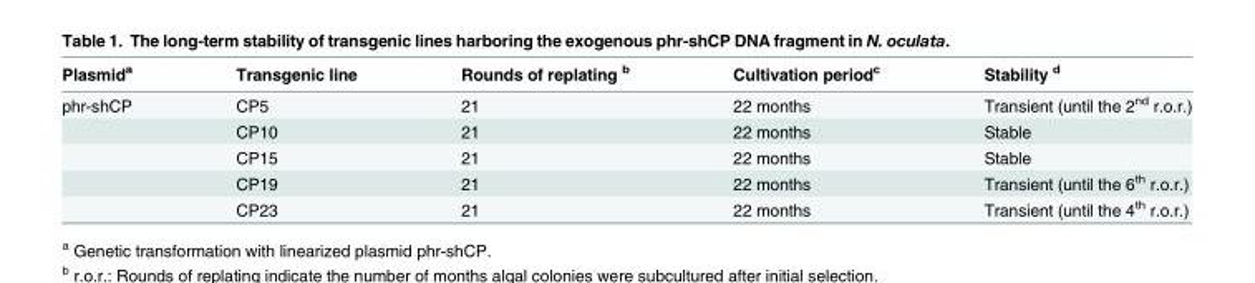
<table><thead><tr><td>Plasmid<sup>a</sup></td><td>Transgenic line</td><td>Rounds of replating <sup>b</sup></td><td>Cultivation period<sup>c</sup></td><td>Stability <sup>d</sup></td></tr></thead><tbody><tr><td rowspan="5">phr-shCP</td><td>CP5</td><td>21</td><td>22 months</td><td>Transient (until the 2<sup>nd</sup> r.o.r.)</td></tr><tr><td>CP10</td><td>21</td><td>22 months</td><td>Stable</td></tr><tr><td>CP15</td><td>21</td><td>22 months</td><td>Stable</td></tr><tr><td>CP19</td><td>21</td><td>22 months</td><td>Transient (until the 6<sup>th</sup> r.o.r.)</td></tr><tr><td>CP23</td><td>21</td><td>22 months</td><td>Transient (until the 4<sup>th</sup> r.o.r.)</td></tr></tbody></table>